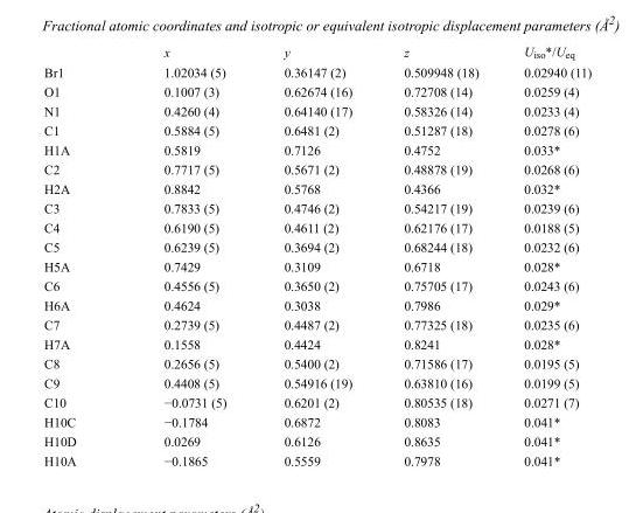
<table><thead><tr><td></td><td>x</td><td>y</td><td>z</td><td>U<sub>iso</sub>*/U<sub>eq</sub></td></tr></thead><tbody><tr><td>Br1</td><td>1.02034 (5)</td><td>0.36147 (2)</td><td>0.509948 (18)</td><td>0.02940 (11)</td></tr><tr><td>O1</td><td>0.1007 (3)</td><td>0.62674 (16)</td><td>0.72708 (14)</td><td>0.0259 (4)</td></tr><tr><td>N1</td><td>0.4260 (4)</td><td>0.64140 (17)</td><td>0.58326 (14)</td><td>0.0233 (4)</td></tr><tr><td>C1</td><td>0.5884 (5)</td><td>0.6481 (2)</td><td>0.51287 (18)</td><td>0.0278 (6)</td></tr><tr><td>H1A</td><td>0.5819</td><td>0.7126</td><td>0.4752</td><td>0.033*</td></tr><tr><td>C2</td><td>0.7717 (5)</td><td>0.5671 (2)</td><td>0.48878 (19)</td><td>0.0268 (6)</td></tr><tr><td>H2A</td><td>0.8842</td><td>0.5768</td><td>0.4366</td><td>0.032*</td></tr><tr><td>C3</td><td>0.7833 (5)</td><td>0.4746 (2)</td><td>0.54217 (19)</td><td>0.0239 (6)</td></tr><tr><td>C4</td><td>0.6190 (5)</td><td>0.4611 (2)</td><td>0.62176 (17)</td><td>0.0188 (5)</td></tr><tr><td>C5</td><td>0.6239 (5)</td><td>0.3694 (2)</td><td>0.68244 (18)</td><td>0.0232 (6)</td></tr><tr><td>H5A</td><td>0.7429</td><td>0.3109</td><td>0.6718</td><td>0.028*</td></tr><tr><td>C6</td><td>0.4556 (5)</td><td>0.3650 (2)</td><td>0.75705 (17)</td><td>0.0243 (6)</td></tr><tr><td>H6A</td><td>0.4624</td><td>0.3038</td><td>0.7986</td><td>0.029*</td></tr><tr><td>C7</td><td>0.2739 (5)</td><td>0.4487 (2)</td><td>0.77325 (18)</td><td>0.0235 (6)</td></tr><tr><td>H7A</td><td>0.1558</td><td>0.4424</td><td>0.8241</td><td>0.028*</td></tr><tr><td>C8</td><td>0.2656 (5)</td><td>0.5400 (2)</td><td>0.71586 (17)</td><td>0.0195 (5)</td></tr><tr><td>C9</td><td>0.4408 (5)</td><td>0.54916 (19)</td><td>0.63810 (16)</td><td>0.0199 (5)</td></tr><tr><td>C10</td><td>−0.0731 (5)</td><td>0.6201 (2)</td><td>0.80535 (18)</td><td>0.0271 (7)</td></tr><tr><td>H10C</td><td>−0.1784</td><td>0.6872</td><td>0.8083</td><td>0.041*</td></tr><tr><td>H10D</td><td>0.0269</td><td>0.6126</td><td>0.8635</td><td>0.041*</td></tr><tr><td>H10A</td><td>−0.1865</td><td>0.5559</td><td>0.7978</td><td>0.041*</td></tr></tbody></table>